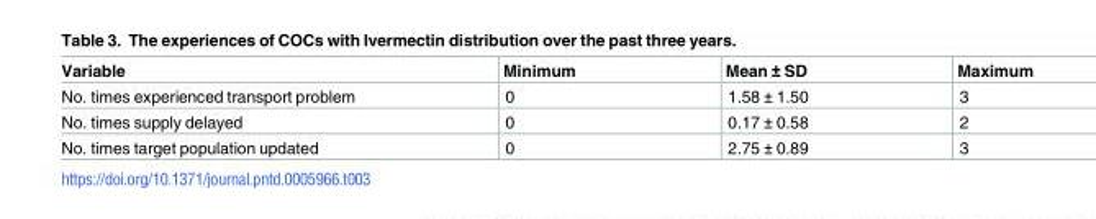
<table><thead><tr><td>Variable</td><td>Minimum</td><td>Mean ± SD</td><td>Maximum</td></tr></thead><tbody><tr><td>No. times experienced transport problem</td><td>0</td><td>1.58 ± 1.50</td><td>3</td></tr><tr><td>No. times supply delayed</td><td>0</td><td>0.17 ± 0.58</td><td>2</td></tr><tr><td>No. times target population updated</td><td>0</td><td>2.75 ± 0.89</td><td>3</td></tr></tbody></table>